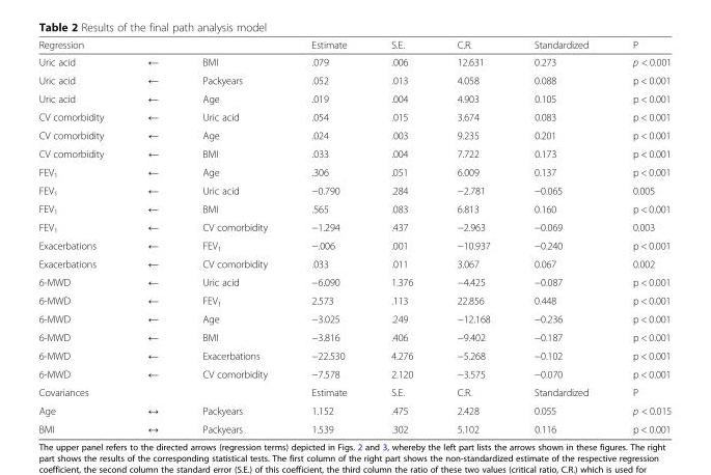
<table><thead><tr><td colspan="3">Regression</td><td rowspan="2">Estimate .079</td><td rowspan="2">S.E. .006</td><td rowspan="2">C.R. 12.631</td><td rowspan="2">Standardized 0.273</td><td rowspan="2">P p &lt; 0.001</td></tr><tr><td>Uric acid</td><td>←</td><td>BMI</td></tr></thead><tbody><tr><td>Uric acid</td><td>←</td><td>Packyears</td><td>.052</td><td>.013</td><td>4.058</td><td>0.088</td><td>p &lt; 0.001</td></tr><tr><td>Uric acid</td><td>←</td><td>Age</td><td>.019</td><td>.004</td><td>4.903</td><td>0.105</td><td>p &lt; 0.001</td></tr><tr><td>CV comorbidity</td><td>←</td><td>Uric acid</td><td>.054</td><td>.015</td><td>3.674</td><td>0.083</td><td>p &lt; 0.001</td></tr><tr><td>CV comorbidity</td><td>←</td><td>Age</td><td>.024</td><td>.003</td><td>9.235</td><td>0.201</td><td>p &lt; 0.001</td></tr><tr><td>CV comorbidity</td><td>←</td><td>BMI</td><td>.033</td><td>.004</td><td>7.722</td><td>0.173</td><td>p &lt; 0.001</td></tr><tr><td>FEV<sub>1</sub></td><td>←</td><td>Age</td><td>.306</td><td>.051</td><td>6.009</td><td>0.137</td><td>p &lt; 0.001</td></tr><tr><td>FEV<sub>1</sub></td><td>←</td><td>Uric acid</td><td>−0.790</td><td>.284</td><td>−2.781</td><td>−0.065</td><td>0.005</td></tr><tr><td>FEV<sub>1</sub></td><td>←</td><td>BMI</td><td>.565</td><td>.083</td><td>6.813</td><td>0.160</td><td>p &lt; 0.001</td></tr><tr><td>FEV<sub>1</sub></td><td>←</td><td>CV comorbidity</td><td>−1.294</td><td>.437</td><td>−2.963</td><td>−0.069</td><td>0.003</td></tr><tr><td>Exacerbations</td><td>←</td><td>FEV<sub>1</sub></td><td>−.006</td><td>.001</td><td>−10.937</td><td>−0.240</td><td>p &lt; 0.001</td></tr><tr><td>Exacerbations</td><td>←</td><td>CV comorbidity</td><td>.033</td><td>.011</td><td>3.067</td><td>0.067</td><td>0.002</td></tr><tr><td>6-MWD</td><td>←</td><td>Uric acid</td><td>−6.090</td><td>1.376</td><td>−4.425</td><td>−0.087</td><td>p &lt; 0.001</td></tr><tr><td>6-MWD</td><td>←</td><td>FEV<sub>1</sub></td><td>2.573</td><td>.113</td><td>22.856</td><td>0.448</td><td>p &lt; 0.001</td></tr><tr><td>6-MWD</td><td>←</td><td>Age</td><td>−3.025</td><td>.249</td><td>−12.168</td><td>−0.236</td><td>p &lt; 0.001</td></tr><tr><td>6-MWD</td><td>←</td><td>BMI</td><td>−3.816</td><td>.406</td><td>−9.402</td><td>−0.187</td><td>p &lt; 0.001</td></tr><tr><td>6-MWD</td><td>←</td><td>Exacerbations</td><td>−22.530</td><td>4.276</td><td>−5.268</td><td>−0.102</td><td>p &lt; 0.001</td></tr><tr><td>6-MWD</td><td>←</td><td>CV comorbidity</td><td>−7.578</td><td>2.120</td><td>−3.575</td><td>−0.070</td><td>p &lt; 0.001</td></tr><tr><td>Covariances</td><td></td><td></td><td>Estimate</td><td>S.E.</td><td>C.R.</td><td>Standardized</td><td>P</td></tr><tr><td>Age</td><td>↔</td><td>Packyears</td><td>1.152</td><td>.475</td><td>2.428</td><td>0.055</td><td>p &lt; 0.015</td></tr><tr><td>BMI</td><td>↔</td><td>Packyears</td><td>1.539</td><td>.302</td><td>5.102</td><td>0.116</td><td>p &lt; 0.001</td></tr></tbody></table>